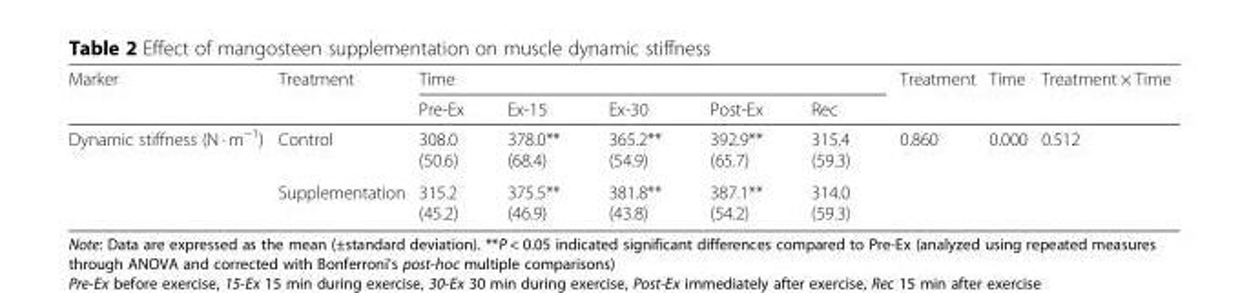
<table><thead><tr><td rowspan="2">Marker</td><td rowspan="2">Treatment</td><td colspan="5">Time</td><td rowspan="2">Treatment</td><td rowspan="2">Time</td><td rowspan="2">Treatment × Time</td></tr><tr><td>Pre-Ex</td><td>Ex-15</td><td>Ex-30</td><td>Post-Ex</td><td>Rec</td></tr></thead><tbody><tr><td rowspan="2">Dynamic stiffness (N · m<sup>−1</sup>)</td><td>Control</td><td>308.0 (50.6)</td><td>378.0** (68.4)</td><td>365.2** (54.9)</td><td>392.9** (65.7)</td><td>315.4 (59.3)</td><td rowspan="2">0.860</td><td rowspan="2">0.000</td><td rowspan="2">0.512</td></tr><tr><td>Supplementation</td><td>315.2 (45.2)</td><td>375.5** (46.9)</td><td>381.8** (43.8)</td><td>387.1** (54.2)</td><td>314.0 (59.3)</td></tr></tbody></table>